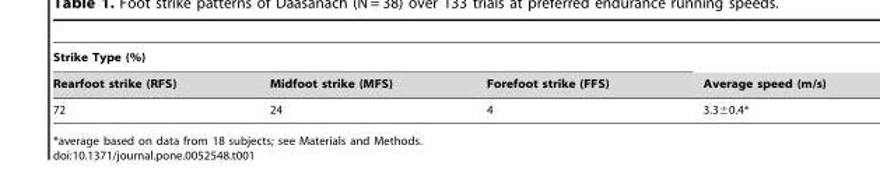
<table><thead><tr><td colspan="3">Strike Type (%)</td><td rowspan="2">Average speed (m/s)</td></tr><tr><td>Rearfoot strike (RFS)</td><td>Midfoot strike (MFS)</td><td>Forefoot strike (FFS)</td></tr></thead><tbody><tr><td>72</td><td>24</td><td>4</td><td>3.3±0.4*</td></tr></tbody></table>